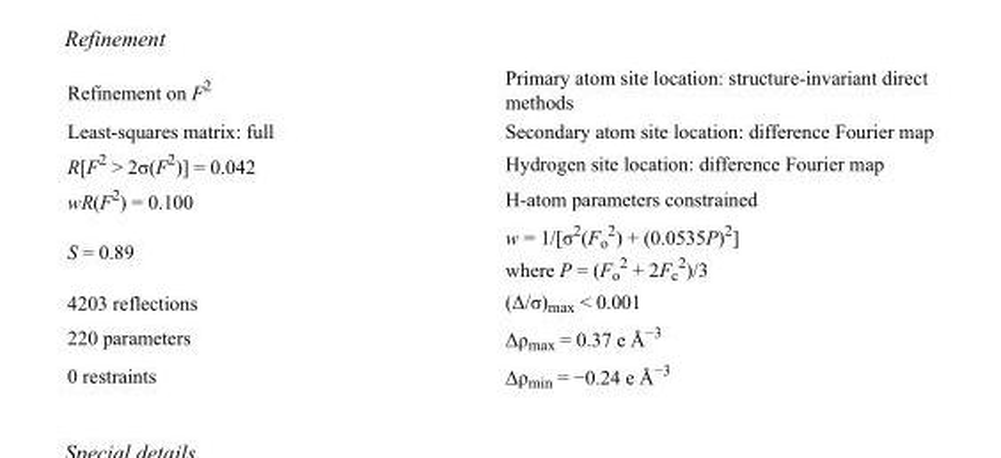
<table><tbody><tr><td>Refinement on F<sup>2</sup></td><td>Primary atom site location: structure-invariant direct methods</td></tr><tr><td>Least-squares matrix: full</td><td>Secondary atom site location: difference Fourier map</td></tr><tr><td>R[F<sup>2</sup> &gt; 2σ(F<sup>2</sup>)] = 0.042</td><td>Hydrogen site location: difference Fourier map</td></tr><tr><td>wR(F<sup>2</sup>) = 0.100</td><td>H-atom parameters constrained</td></tr><tr><td>S = 0.89</td><td>w = 1/[σ<sup>2</sup>(F<sub>o</sub> <sup>2</sup>) + (0.0535P)<sup>2</sup>] where P = (F<sub>o</sub> <sup>2</sup> + 2F<sub>c</sub> <sup>2</sup>)/3</td></tr><tr><td>4203 reflections</td><td>(Δ/σ)<sub>max</sub> &lt; 0.001</td></tr><tr><td>220 parameters</td><td>Δρ<sub>max</sub> = 0.37 e Å<sup>−3</sup></td></tr><tr><td>0 restraints</td><td>Δρ<sub>min</sub> = −0.24 e Å<sup>−3</sup></td></tr></tbody></table>